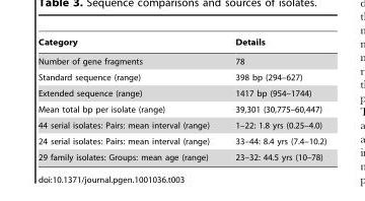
<table><thead><tr><td>Category</td><td>Details</td></tr></thead><tbody><tr><td>Number of gene fragments</td><td>78</td></tr><tr><td>Standard sequence (range)</td><td>398 bp (294–627)</td></tr><tr><td>Extended sequence (range)</td><td>1417 bp (954–1744)</td></tr><tr><td>Mean total bp per isolate (range)</td><td>39,301 (30,775–60,447)</td></tr><tr><td>44 serial isolates: Pairs: mean interval (range)</td><td>1–22: 1.8 yrs (0.25–4.0)</td></tr><tr><td>24 serial isolates: Pairs: mean interval (range)</td><td>33–44: 8.4 yrs (7.4–10.2)</td></tr><tr><td>29 family isolates: Groups: mean age (range)</td><td>23–32: 44.5 yrs (10–78)</td></tr></tbody></table>